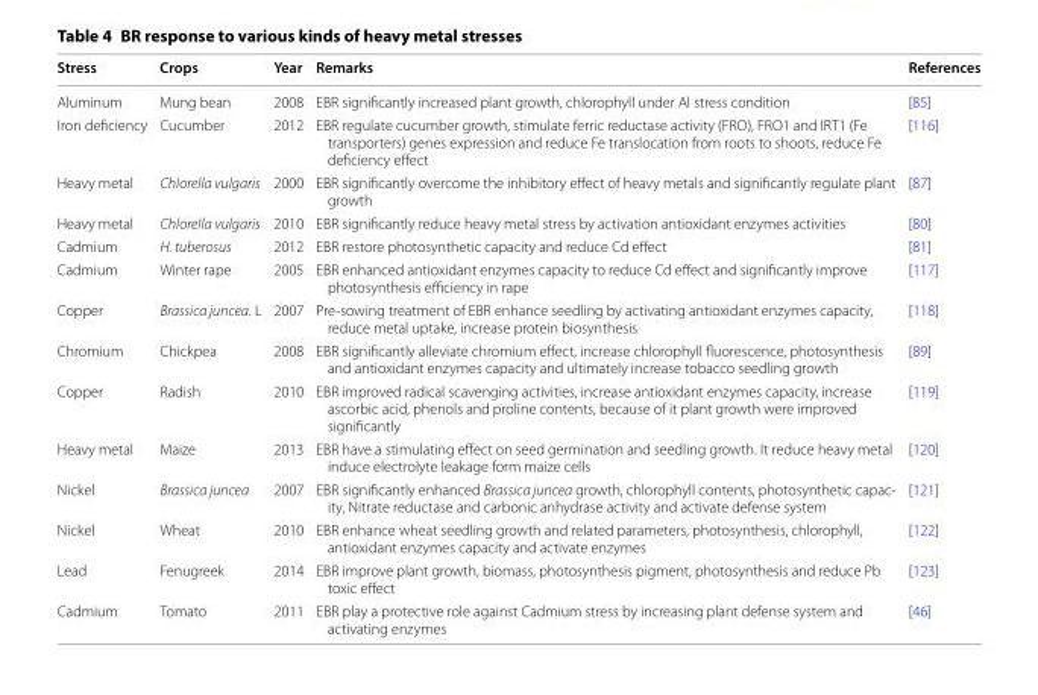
<table><thead><tr><td>Stress</td><td>Crops</td><td>Year</td><td>Remarks</td><td>References</td></tr></thead><tbody><tr><td>Aluminum</td><td>Mung bean</td><td>2008</td><td>EBR significantly increased plant growth, chlorophyll under Al stress condition</td><td>[85]</td></tr><tr><td>Iron deficiency</td><td>Cucumber</td><td>2012</td><td>EBR regulate cucumber growth, stimulate ferric reductase activity (FRO), FRO1 and IRT1 (Fe transporters) genes expression and reduce Fe translocation from roots to shoots, reduce Fe deficiency effect</td><td>[116]</td></tr><tr><td>Heavy metal</td><td>Chlorella vulgaris</td><td>2000</td><td>EBR significantly overcome the inhibitory effect of heavy metals and significantly regulate plant growth</td><td>[87]</td></tr><tr><td>Heavy metal</td><td>Chlorella vulgaris</td><td>2010</td><td>EBR significantly reduce heavy metal stress by activation antioxidant enzymes activities</td><td>[80]</td></tr><tr><td>Cadmium</td><td>H. tuberosus</td><td>2012</td><td>EBR restore photosynthetic capacity and reduce Cd effect</td><td>[81]</td></tr><tr><td>Cadmium</td><td>Winter rape</td><td>2005</td><td>EBR enhanced antioxidant enzymes capacity to reduce Cd effect and significantly improve photosynthesis efficiency in rape</td><td>[117]</td></tr><tr><td>Copper</td><td>Brassica juncea. L</td><td>2007</td><td>Pre-sowing treatment of EBR enhance seedling by activating antioxidant enzymes capacity, reduce metal uptake, increase protein biosynthesis</td><td>[118]</td></tr><tr><td>Chromium</td><td>Chickpea</td><td>2008</td><td>EBR significantly alleviate chromium effect, increase chlorophyll fluorescence, photosynthesis and antioxidant enzymes capacity and ultimately increase tobacco seedling growth</td><td>[89]</td></tr><tr><td>Copper</td><td>Radish</td><td>2010</td><td>EBR improved radical scavenging activities, increase antioxidant enzymes capacity, increase ascorbic acid, phenols and proline contents, because of it plant growth were improved significantly</td><td>[119]</td></tr><tr><td>Heavy metal</td><td>Maize</td><td>2013</td><td>EBR have a stimulating effect on seed germination and seedling growth. It reduce heavy metal induce electrolyte leakage form maize cells</td><td>[120]</td></tr><tr><td>Nickel</td><td>Brassica juncea</td><td>2007</td><td>EBR significantly enhanced Brassica juncea growth, chlorophyll contents, photosynthetic capac- ity, Nitrate reductase and carbonic anhydrase activity and activate defense system</td><td>[121]</td></tr><tr><td>Nickel</td><td>Wheat</td><td>2010</td><td>EBR enhance wheat seedling growth and related parameters, photosynthesis, chlorophyll, antioxidant enzymes capacity and activate enzymes</td><td>[122]</td></tr><tr><td>Lead</td><td>Fenugreek</td><td>2014</td><td>EBR improve plant growth, biomass, photosynthesis pigment, photosynthesis and reduce Pb toxic effect</td><td>[123]</td></tr><tr><td>Cadmium</td><td>Tomato</td><td>2011</td><td>EBR play a protective role against Cadmium stress by increasing plant defense system and activating enzymes</td><td>[46]</td></tr></tbody></table>